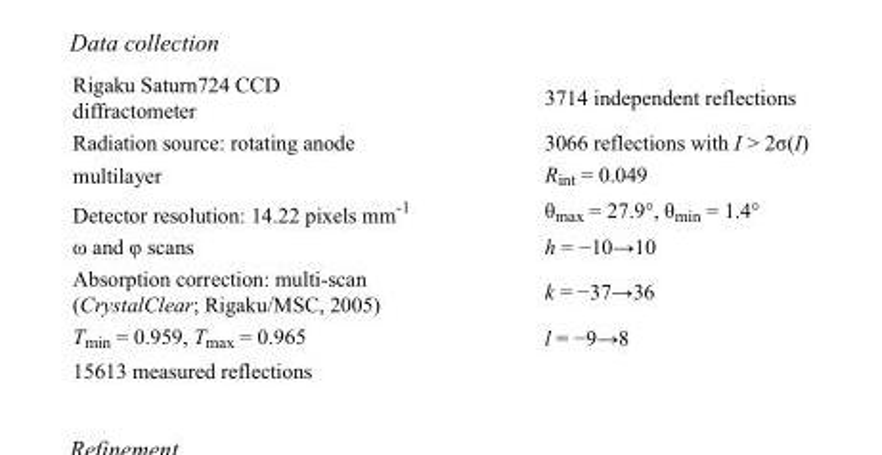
<table><tbody><tr><td>Rigaku Saturn724 CCD diffractometer</td><td>3714 independent reflections</td></tr><tr><td>Radiation source: rotating anode</td><td>3066 reflections with I &gt; 2σ(I)</td></tr><tr><td>multilayer</td><td>R<sub>int</sub> = 0.049</td></tr><tr><td>Detector resolution: 14.22 pixels mm<sup>-1</sup></td><td>θ<sub>max</sub> = 27.9°, θ<sub>min</sub> = 1.4°</td></tr><tr><td>ω and φ scans</td><td>h = −10→10</td></tr><tr><td>Absorption correction: multi-scan (CrystalClear; Rigaku/MSC, 2005)</td><td>k = −37→36</td></tr><tr><td>T<sub>min</sub> = 0.959, T<sub>max</sub> = 0.965</td><td>l = −9→8</td></tr><tr><td>15613 measured reflections</td><td></td></tr></tbody></table>